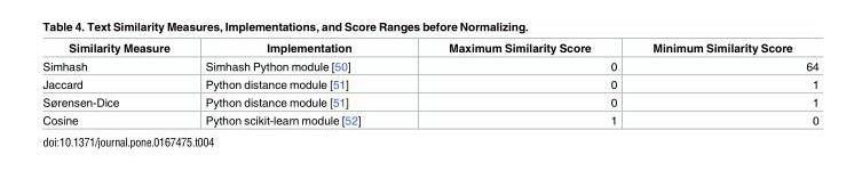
<table><thead><tr><td>Similarity Measure</td><td>Implementation</td><td>Maximum Similarity Score</td><td>Minimum Similarity Score</td></tr></thead><tbody><tr><td>Simhash</td><td>Simhash Python module [50]</td><td>0</td><td>64</td></tr><tr><td>Jaccard</td><td>Python distance module [51]</td><td>0</td><td>1</td></tr><tr><td>Sørensen-Dice</td><td>Python distance module [51]</td><td>0</td><td>1</td></tr><tr><td>Cosine</td><td>Python scikit-learn module [52]</td><td>1</td><td>0</td></tr></tbody></table>